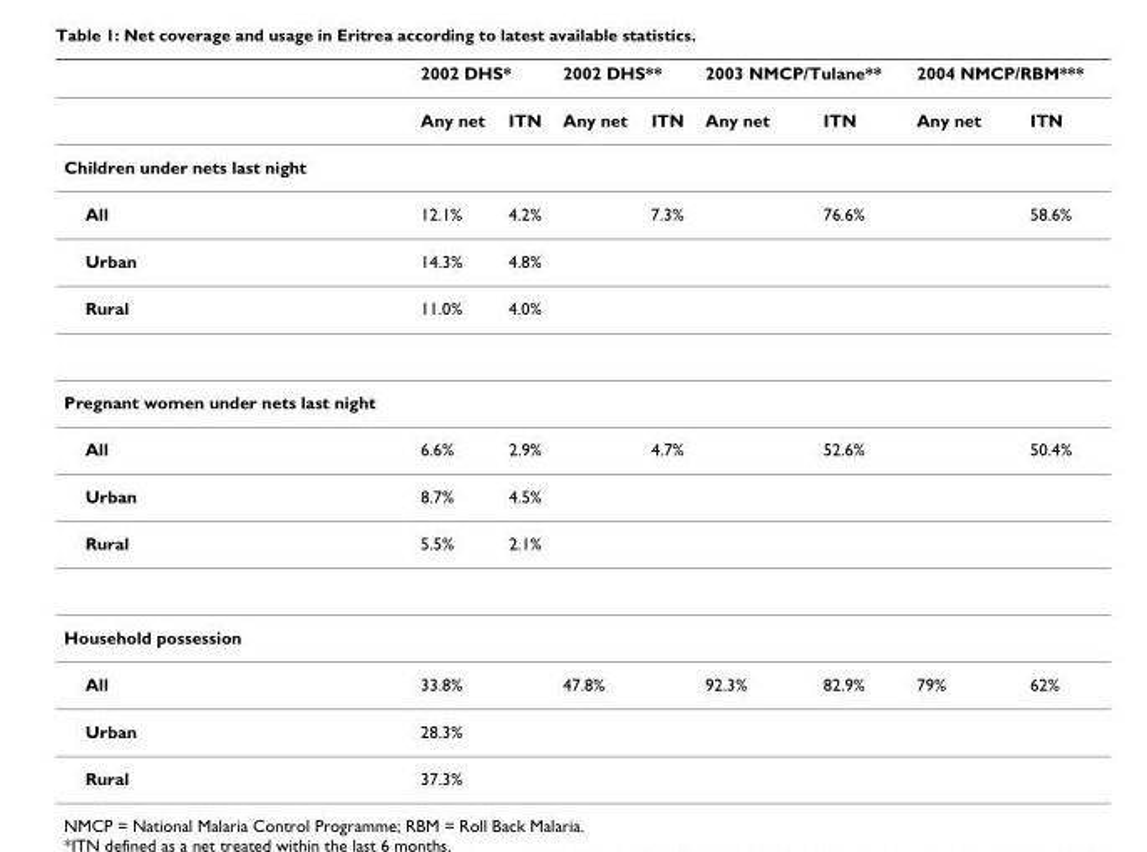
<table><thead><tr><td rowspan="2"></td><td colspan="2">2002 DHS*</td><td colspan="2">2002 DHS**</td><td colspan="2">2003 NMCP/Tulane**</td><td colspan="2">2004 NMCP/RBM***</td></tr><tr><td>Any net</td><td>ITN</td><td>Any net</td><td>ITN</td><td>Any net</td><td>ITN</td><td>Any net</td><td>ITN</td></tr></thead><tbody><tr><td colspan="9">Children under nets last night</td></tr><tr><td>All</td><td>12.1%</td><td>4.2%</td><td></td><td>7.3%</td><td></td><td>76.6%</td><td></td><td>58.6%</td></tr><tr><td>Urban</td><td>14.3%</td><td>4.8%</td><td></td><td></td><td></td><td></td><td></td><td></td></tr><tr><td>Rural</td><td>11.0%</td><td>4.0%</td><td></td><td></td><td></td><td></td><td></td><td></td></tr><tr><td colspan="9">Pregnant women under nets last night</td></tr><tr><td>All</td><td>6.6%</td><td>2.9%</td><td></td><td>4.7%</td><td></td><td>52.6%</td><td></td><td>50.4%</td></tr><tr><td>Urban</td><td>8.7%</td><td>4.5%</td><td></td><td></td><td></td><td></td><td></td><td></td></tr><tr><td>Rural</td><td>5.5%</td><td>2.1%</td><td></td><td></td><td></td><td></td><td></td><td></td></tr><tr><td colspan="9">Household possession</td></tr><tr><td>All</td><td>33.8%</td><td></td><td>47.8%</td><td></td><td>92.3%</td><td>82.9%</td><td>79%</td><td>62%</td></tr><tr><td>Urban</td><td>28.3%</td><td></td><td></td><td></td><td></td><td></td><td></td><td></td></tr><tr><td>Rural</td><td>37.3%</td><td></td><td></td><td></td><td></td><td></td><td></td><td></td></tr></tbody></table>